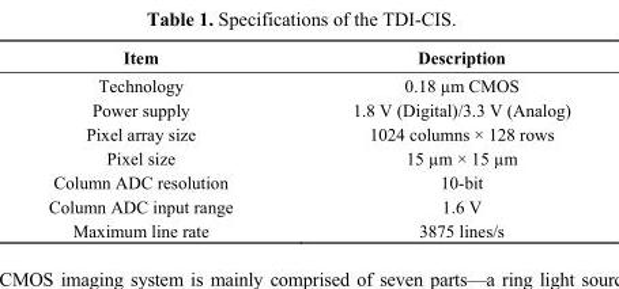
<table><thead><tr><td>Item</td><td>Description</td></tr></thead><tbody><tr><td>Technology</td><td>0.18 µm CMOS</td></tr><tr><td>Power supply</td><td>1.8 V (Digital)/3.3 V (Analog)</td></tr><tr><td>Pixel array size</td><td>1024 columns × 128 rows</td></tr><tr><td>Pixel size</td><td>15 µm × 15 µm</td></tr><tr><td>Column ADC resolution</td><td>10-bit</td></tr><tr><td>Column ADC input range</td><td>1.6 V</td></tr><tr><td>Maximum line rate</td><td>3875 lines/s</td></tr></tbody></table>